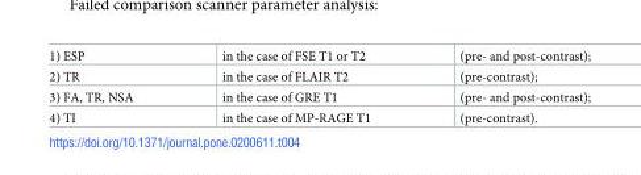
<table><tbody><tr><td>1) ESP</td><td>in the case of FSE T1 or T2</td><td>(pre- and post-contrast);</td></tr><tr><td>2) TR</td><td>in the case of FLAIR T2</td><td>(pre-contrast);</td></tr><tr><td>3) FA, TR, NSA</td><td>in the case of GRE T1</td><td>(pre- and post-contrast);</td></tr><tr><td>4) TI</td><td>in the case of MP-RAGE T1</td><td>(pre-contrast).</td></tr></tbody></table>